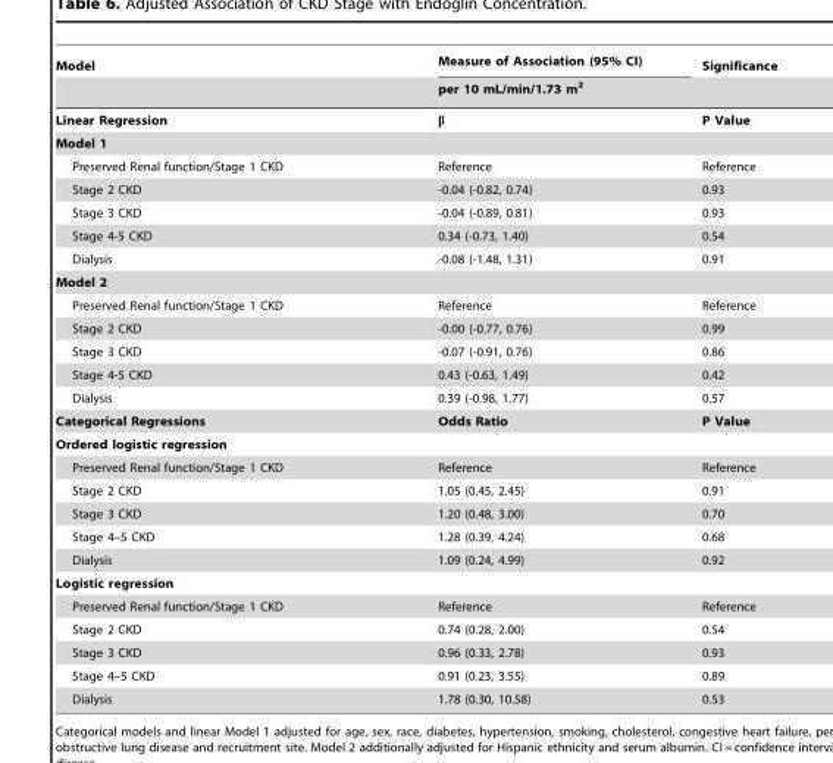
<table><thead><tr><td rowspan="2">Model</td><td rowspan="2">Measure of Association (95% CI) per 10 mL/min/1.73 m<sup>2</sup></td><td rowspan="2">Significance</td></tr><tr></tr></thead><tbody><tr><td>Linear Regression</td><td>β</td><td>P Value</td></tr><tr><td colspan="3">Model 1</td></tr><tr><td>Preserved Renal function/Stage 1 CKD</td><td>Reference</td><td>Reference</td></tr><tr><td>Stage 2 CKD</td><td>-0.04 (-0.82, 0.74)</td><td>0.93</td></tr><tr><td>Stage 3 CKD</td><td>-0.04 (-0.89, 0.81)</td><td>0.93</td></tr><tr><td>Stage 4-5 CKD</td><td>0.34 (-0.73, 1.40)</td><td>0.54</td></tr><tr><td>Dialysis</td><td>-0.08 (-1.48, 1.31)</td><td>0.91</td></tr><tr><td colspan="3">Model 2</td></tr><tr><td>Preserved Renal function/Stage 1 CKD</td><td>Reference</td><td>Reference</td></tr><tr><td>Stage 2 CKD</td><td>-0.00 (-0.77, 0.76)</td><td>0.99</td></tr><tr><td>Stage 3 CKD</td><td>-0.07 (-0.91, 0.76)</td><td>0.86</td></tr><tr><td>Stage 4-5 CKD</td><td>0.43 (-0.63, 1.49)</td><td>0.42</td></tr><tr><td>Dialysis</td><td>0.39 (-0.98, 1.77)</td><td>0.57</td></tr><tr><td>Categorical Regressions</td><td>Odds Ratio</td><td>P Value</td></tr><tr><td colspan="3">Ordered logistic regression</td></tr><tr><td>Preserved Renal function/Stage 1 CKD</td><td>Reference</td><td>Reference</td></tr><tr><td>Stage 2 CKD</td><td>1.05 (0.45, 2.45)</td><td>0.91</td></tr><tr><td>Stage 3 CKD</td><td>1.20 (0.48, 3.00)</td><td>0.70</td></tr><tr><td>Stage 4–5 CKD</td><td>1.28 (0.39, 4.24)</td><td>0.68</td></tr><tr><td>Dialysis</td><td>1.09 (0.24, 4.99)</td><td>0.92</td></tr><tr><td colspan="3">Logistic regression</td></tr><tr><td>Preserved Renal function/Stage 1 CKD</td><td>Reference</td><td>Reference</td></tr><tr><td>Stage 2 CKD</td><td>0.74 (0.28, 2.00)</td><td>0.54</td></tr><tr><td>Stage 3 CKD</td><td>0.96 (0.33, 2.78)</td><td>0.93</td></tr><tr><td>Stage 4–5 CKD</td><td>0.91 (0.23, 3.55)</td><td>0.89</td></tr><tr><td>Dialysis</td><td>1.78 (0.30, 10.58)</td><td>0.53</td></tr></tbody></table>